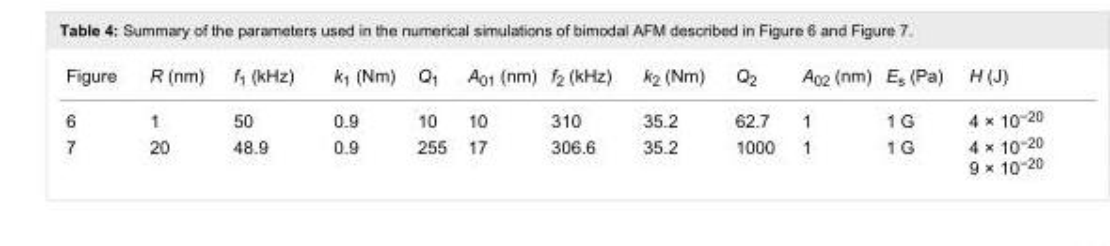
<table><tbody><tr><td>Figure</td><td>R (nm)</td><td>f<sub>1</sub> (kHz)</td><td>k<sub>1</sub> (Nm)</td><td>Q<sub>1</sub></td><td>A<sub>01</sub> (nm)</td><td>f<sub>2</sub> (kHz)</td><td>k<sub>2</sub> (Nm)</td><td>Q<sub>2</sub></td><td>A<sub>02</sub> (nm)</td><td>E<sub>s</sub> (Pa)</td><td>H (J)</td></tr><tr><td>6</td><td>1</td><td>50</td><td>0.9</td><td>10</td><td>10</td><td>310</td><td>35.2</td><td>62.7</td><td>1</td><td>1 G</td><td>4 × 10<sup>−20</sup></td></tr><tr><td>7</td><td>20</td><td>48.9</td><td>0.9</td><td>255</td><td>17</td><td>306.6</td><td>35.2</td><td>1000</td><td>1</td><td>1 G</td><td>4 × 10<sup>−20</sup> 9 × 10<sup>−20</sup></td></tr></tbody></table>